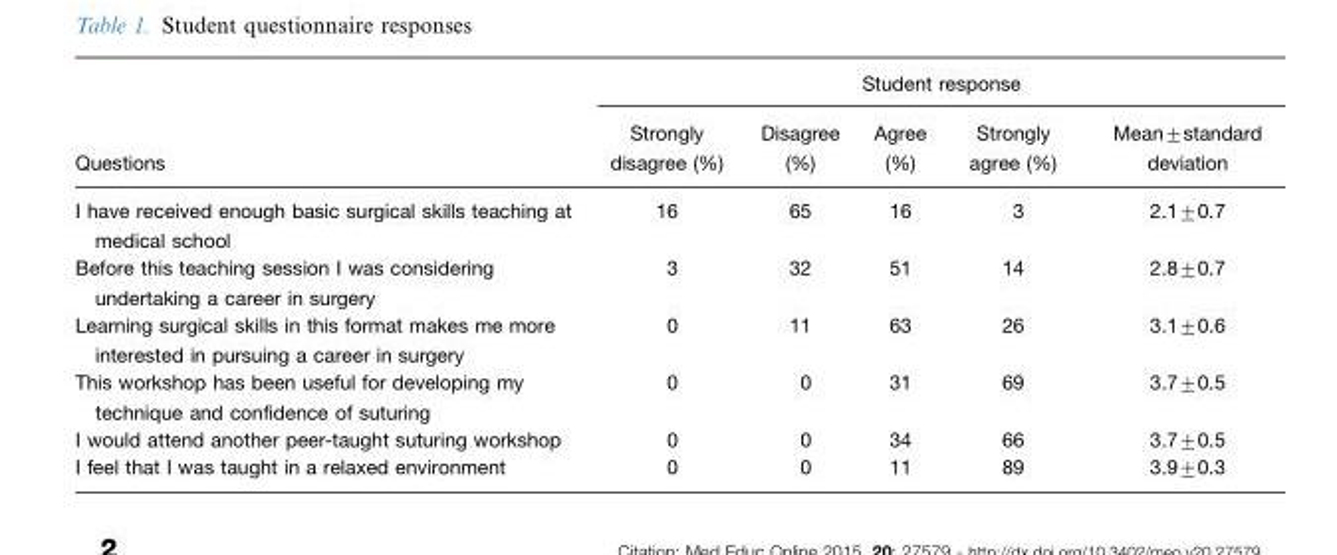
<table><thead><tr><td rowspan="2">Questions</td><td colspan="5">Student response</td></tr><tr><td>Strongly disagree (%)</td><td>Disagree (%)</td><td>Agree (%)</td><td>Strongly agree (%)</td><td>Mean±standard deviation</td></tr></thead><tbody><tr><td>I have received enough basic surgical skills teaching at medical school</td><td>16</td><td>65</td><td>16</td><td>3</td><td>2.1±0.7</td></tr><tr><td>Before this teaching session I was considering undertaking a career in surgery</td><td>3</td><td>32</td><td>51</td><td>14</td><td>2.8±0.7</td></tr><tr><td>Learning surgical skills in this format makes me more interested in pursuing a career in surgery</td><td>0</td><td>11</td><td>63</td><td>26</td><td>3.1±0.6</td></tr><tr><td>This workshop has been useful for developing my technique and confidence of suturing</td><td>0</td><td>0</td><td>31</td><td>69</td><td>3.7±0.5</td></tr><tr><td>I would attend another peer-taught suturing workshop</td><td>0</td><td>0</td><td>34</td><td>66</td><td>3.7±0.5</td></tr><tr><td>I feel that I was taught in a relaxed environment</td><td>0</td><td>0</td><td>11</td><td>89</td><td>3.9±0.3</td></tr></tbody></table>